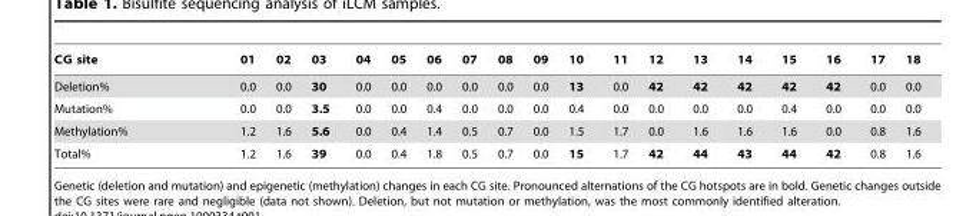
<table><thead><tr><td>CG site</td><td>01</td><td>02</td><td>03</td><td>04</td><td>05</td><td>06</td><td>07</td><td>08</td><td>09</td><td>10</td><td>11</td><td>12</td><td>13</td><td>14</td><td>15</td><td>16</td><td>17</td><td>18</td></tr></thead><tbody><tr><td>Deletion%</td><td>0.0</td><td>0.0</td><td>30</td><td>0.0</td><td>0.0</td><td>0.0</td><td>0.0</td><td>0.0</td><td>0.0</td><td>13</td><td>0.0</td><td>42</td><td>42</td><td>42</td><td>42</td><td>42</td><td>0.0</td><td>0.0</td></tr><tr><td>Mutation%</td><td>0.0</td><td>0.0</td><td>3.5</td><td>0.0</td><td>0.0</td><td>0.4</td><td>0.0</td><td>0.0</td><td>0.0</td><td>0.4</td><td>0.0</td><td>0.0</td><td>0.0</td><td>0.0</td><td>0.4</td><td>0.0</td><td>0.0</td><td>0.0</td></tr><tr><td>Methylation%</td><td>1.2</td><td>1.6</td><td>5.6</td><td>0.0</td><td>0.4</td><td>1.4</td><td>0.5</td><td>0.7</td><td>0.0</td><td>1.5</td><td>1.7</td><td>0.0</td><td>1.6</td><td>1.6</td><td>1.6</td><td>0.0</td><td>0.8</td><td>1.6</td></tr><tr><td>Total%</td><td>1.2</td><td>1.6</td><td>39</td><td>0.0</td><td>0.4</td><td>1.8</td><td>0.5</td><td>0.7</td><td>0.0</td><td>15</td><td>1.7</td><td>42</td><td>44</td><td>43</td><td>44</td><td>42</td><td>0.8</td><td>1.6</td></tr></tbody></table>